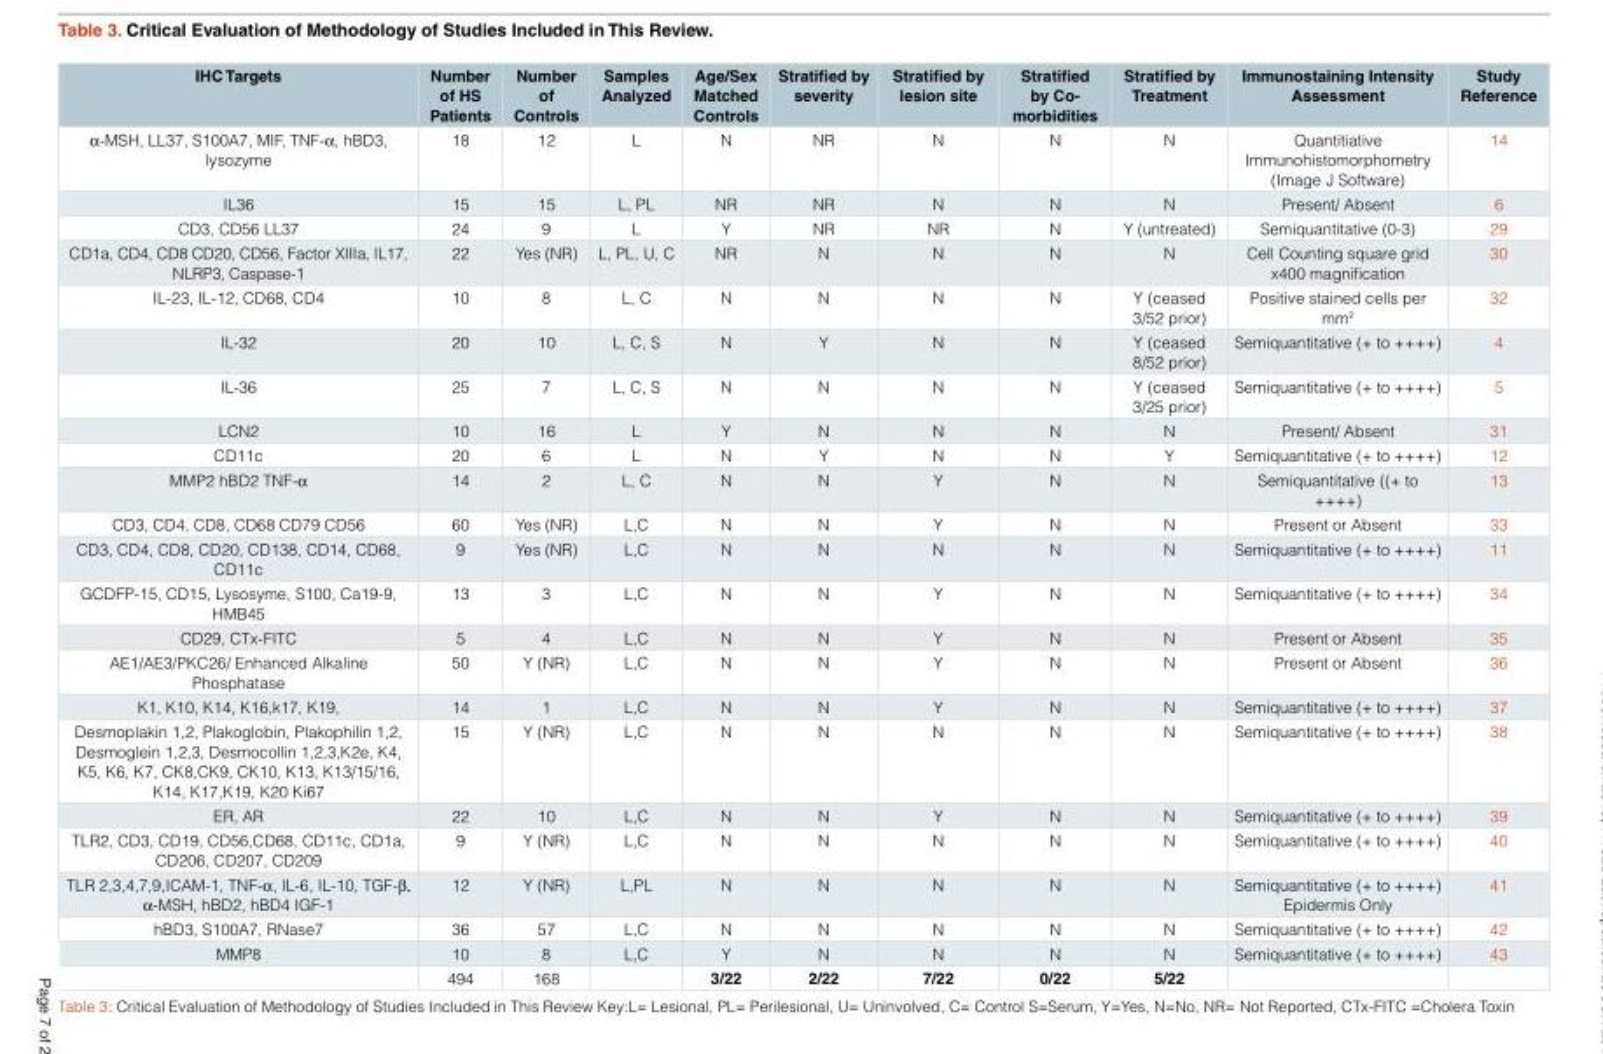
<table><thead><tr><td>IHC Targets</td><td>Number of HS Patients</td><td>Number of Controls</td><td>Samples Analyzed</td><td>Age/Sex Matched Controls</td><td>Stratified by severity</td><td>Stratified by lesion site</td><td>Stratified by Co- morbidities</td><td>Stratified by Treatment</td><td>Immunostaining Intensity Assessment</td><td>Study Reference</td></tr></thead><tbody><tr><td>α-MSH, LL37, S100A7, MIF, TNF-α, hBD3, lysozyme</td><td>18</td><td>12</td><td>L</td><td>N</td><td>NR</td><td>N</td><td>N</td><td>N</td><td>Quantitiative Immunohistomorphometry (Image J Software)</td><td>14</td></tr><tr><td>IL36</td><td>15</td><td>15</td><td>L, PL</td><td>NR</td><td>NR</td><td>N</td><td>N</td><td>N</td><td>Present/ Absent</td><td>6</td></tr><tr><td>CD3, CD56 LL37</td><td>24</td><td>9</td><td>L</td><td>Y</td><td>NR</td><td>NR</td><td>N</td><td>Y (untreated)</td><td>Semiquantitative (0-3)</td><td>29</td></tr><tr><td>CD1a, CD4, CD8 CD20, CD56, Factor XIIIa, IL17, NLRP3, Caspase-1</td><td>22</td><td>Yes (NR)</td><td>L, PL, U, C</td><td>NR</td><td>N</td><td>N</td><td>N</td><td>N</td><td>Cell Counting square grid x400 magnification</td><td>30</td></tr><tr><td>IL-23, IL-12, CD68, CD4</td><td>10</td><td>8</td><td>L, C</td><td>N</td><td>N</td><td>N</td><td>N</td><td>Y (ceased 3/52 prior)</td><td>Positive stained cells per mm<sup>2</sup></td><td>32</td></tr><tr><td>IL-32</td><td>20</td><td>10</td><td>L, C, S</td><td>N</td><td>Y</td><td>N</td><td>N</td><td>Y (ceased 8/52 prior)</td><td>Semiquantitative (+ to ++++)</td><td>4</td></tr><tr><td>IL-36</td><td>25</td><td>7</td><td>L, C, S</td><td>N</td><td>N</td><td>N</td><td>N</td><td>Y (ceased 3/25 prior)</td><td>Semiquantitative (+ to ++++)</td><td>5</td></tr><tr><td>LCN2</td><td>10</td><td>16</td><td>L</td><td>Y</td><td>N</td><td>N</td><td>N</td><td>N</td><td>Present/ Absent</td><td>31</td></tr><tr><td>CD11c</td><td>20</td><td>6</td><td>L</td><td>N</td><td>Y</td><td>N</td><td>N</td><td>Y</td><td>Semiquantitative (+ to ++++)</td><td>12</td></tr><tr><td>MMP2 hBD2 TNF-α</td><td>14</td><td>2</td><td>L, C</td><td>N</td><td>N</td><td>Y</td><td>N</td><td>N</td><td>Semiquantitative ((+ to ++++)</td><td>13</td></tr><tr><td>CD3, CD4, CD8, CD68 CD79 CD56</td><td>60</td><td>Yes (NR)</td><td>L,C</td><td>N</td><td>N</td><td>Y</td><td>N</td><td>N</td><td>Present or Absent</td><td>33</td></tr><tr><td>CD3, CD4, CD8, CD20, CD138, CD14, CD68, CD11c</td><td>9</td><td>Yes (NR)</td><td>L,C</td><td>N</td><td>N</td><td>N</td><td>N</td><td>N</td><td>Semiquantitative (+ to ++++)</td><td>11</td></tr><tr><td>GCDFP-15, CD15, Lysosyme, S100, Ca19-9, HMB45</td><td>13</td><td>3</td><td>L,C</td><td>N</td><td>N</td><td>Y</td><td>N</td><td>N</td><td>Semiquantitative (+ to ++++)</td><td>34</td></tr><tr><td>CD29, CTx-FITC</td><td>5</td><td>4</td><td>L,C</td><td>N</td><td>N</td><td>Y</td><td>N</td><td>N</td><td>Present or Absent</td><td>35</td></tr><tr><td>AE1/AE3/PKC26/ Enhanced Alkaline Phosphatase</td><td>50</td><td>Y (NR)</td><td>L,C</td><td>N</td><td>N</td><td>Y</td><td>N</td><td>N</td><td>Present or Absent</td><td>36</td></tr><tr><td>K1, K10, K14, K16,k17, K19,</td><td>14</td><td>1</td><td>L,C</td><td>N</td><td>N</td><td>Y</td><td>N</td><td>N</td><td>Semiquantitative (+ to ++++)</td><td>37</td></tr><tr><td>Desmoplakin 1,2, Plakoglobin, Plakophilin 1,2, Desmoglein 1,2,3, Desmocollin 1,2,3,K2e, K4, K5, K6, K7, CK8,CK9, CK10, K13, K13/15/16, K14, K17,K19, K20 Ki67</td><td>15</td><td>Y (NR)</td><td>L,C</td><td>N</td><td>N</td><td>N</td><td>N</td><td>N</td><td>Semiquantitative (+ to ++++)</td><td>38</td></tr><tr><td>ER, AR</td><td>22</td><td>10</td><td>L,C</td><td>N</td><td>N</td><td>Y</td><td>N</td><td>N</td><td>Semiquantitative (+ to ++++)</td><td>39</td></tr><tr><td>TLR2, CD3, CD19, CD56,CD68, CD11c, CD1a, CD206, CD207, CD209</td><td>9</td><td>Y (NR)</td><td>L,C</td><td>N</td><td>N</td><td>N</td><td>N</td><td>N</td><td>Semiquantitative (+ to ++++)</td><td>40</td></tr><tr><td>TLR 2,3,4,7,9,ICAM-1, TNF-α, IL-6, IL-10, TGF-β, α-MSH, hBD2, hBD4 IGF-1</td><td>12</td><td>Y (NR)</td><td>L,PL</td><td>N</td><td>N</td><td>N</td><td>N</td><td>N</td><td>Semiquantitative (+ to ++++) Epidermis Only</td><td>41</td></tr><tr><td>hBD3, S100A7, RNase7</td><td>36</td><td>57</td><td>L,C</td><td>N</td><td>N</td><td>N</td><td>N</td><td>N</td><td>Semiquantitative (+ to ++++)</td><td>42</td></tr><tr><td rowspan="2">MMP8</td><td>10</td><td>8</td><td>L,C</td><td>Y</td><td>N</td><td>N</td><td>N</td><td>N</td><td>Semiquantitative (+ to ++++)</td><td>43</td></tr><tr><td>494</td><td>168</td><td></td><td>3/22</td><td>2/22</td><td>7/22</td><td>0/22</td><td>5/22</td><td></td><td></td></tr></tbody></table>